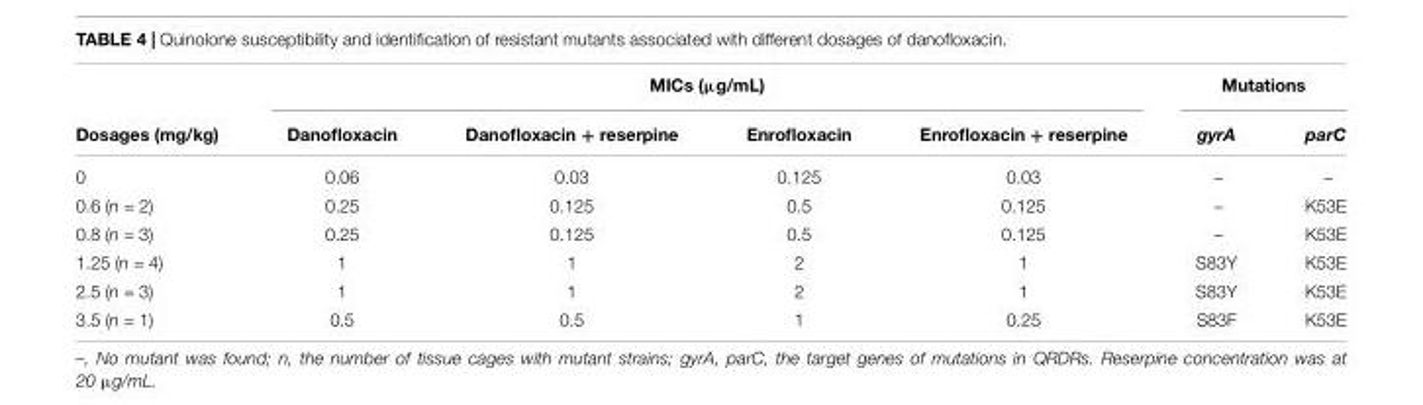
<table><thead><tr><td rowspan="2">Dosages (mg/kg)</td><td colspan="4">MICs (µg/mL)</td><td colspan="2">Mutations</td></tr><tr><td>Danofloxacin</td><td>Danofloxacin + reserpine</td><td>Enrofloxacin</td><td>Enrofloxacin + reserpine</td><td>gyrA</td><td>parC</td></tr></thead><tbody><tr><td>0</td><td>0.06</td><td>0.03</td><td>0.125</td><td>0.03</td><td>–</td><td>–</td></tr><tr><td>0.6 (n = 2)</td><td>0.25</td><td>0.125</td><td>0.5</td><td>0.125</td><td>–</td><td>K53E</td></tr><tr><td>0.8 (n = 3)</td><td>0.25</td><td>0.125</td><td>0.5</td><td>0.125</td><td>–</td><td>K53E</td></tr><tr><td>1.25 (n = 4)</td><td>1</td><td>1</td><td>2</td><td>1</td><td>S83Y</td><td>K53E</td></tr><tr><td>2.5 (n = 3)</td><td>1</td><td>1</td><td>2</td><td>1</td><td>S83Y</td><td>K53E</td></tr><tr><td>3.5 (n = 1)</td><td>0.5</td><td>0.5</td><td>1</td><td>0.25</td><td>S83F</td><td>K53E</td></tr></tbody></table>